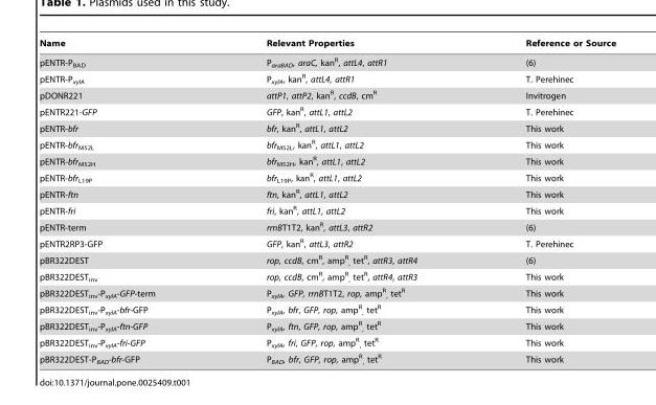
<table><thead><tr><td>Name</td><td>Relevant Properties</td><td>Reference or Source</td></tr></thead><tbody><tr><td>pENTR-P<sub>BAD</sub></td><td>P<sub>araBAD</sub>, araC, kan<sup>R</sup>, attL4, attR1</td><td>(6)</td></tr><tr><td>pENTR-P<sub>xylA</sub></td><td>P<sub>xylA</sub>, kan<sup>R</sup>, attL4, attR1</td><td>T. Perehinec</td></tr><tr><td>pDONR221</td><td>attP1, attP2, kan<sup>R</sup>, ccdB, cm<sup>R</sup></td><td>Invitrogen</td></tr><tr><td>pENTR221-GFP</td><td>GFP, kan<sup>R</sup>, attL1, attL2</td><td>T. Perehinec</td></tr><tr><td>pENTR-bfr</td><td>bfr, kan<sup>R</sup>, attL1, attL2</td><td>This work</td></tr><tr><td>pENTR-bfr<sub>M52L</sub></td><td>bfr<sub>M52L</sub>, kan<sup>R</sup>, attL1, attL2</td><td>This work</td></tr><tr><td>pENTR-bfr<sub>M52H</sub></td><td>bfr<sub>M52H</sub>, kan<sup>R</sup>, attL1, attL2</td><td>This work</td></tr><tr><td>pENTR-bfr<sub>L19P</sub></td><td>bfr<sub>L19P</sub>, kan<sup>R</sup>, attL1, attL2</td><td>This work</td></tr><tr><td>pENTR-ftn</td><td>ftn, kan<sup>R</sup>, attL1, attL2</td><td>This work</td></tr><tr><td>pENTR-fri</td><td>fri, kan<sup>R</sup>, attL1, attL2</td><td>This work</td></tr><tr><td>pENTR-term</td><td>rrnBT1T2, kan<sup>R</sup>, attL3, attR2</td><td>(6)</td></tr><tr><td>pENTR2RP3-GFP</td><td>GFP, kan<sup>R</sup>, attL3, attR2</td><td>T. Perehinec</td></tr><tr><td>pBR322DEST</td><td>rop, ccdB, cm<sup>R</sup>, amp<sup>R</sup> <sub>,</sub> tet<sup>R</sup>, attR3, attR4</td><td>(6)</td></tr><tr><td>pBR322DEST<sub>inv</sub></td><td>rop, ccdB, cm<sup>R</sup>, amp<sup>R</sup> <sub>,</sub> tet<sup>R</sup>, attR4, attR3</td><td>This work</td></tr><tr><td>pBR322DEST<sub>inv</sub>-P<sub>xylA</sub>-GFP-term</td><td>P<sub>xylA</sub>, GFP, rrnBT1T2, rop, amp<sup>R</sup> <sub>,</sub> tet<sup>R</sup></td><td>This work</td></tr><tr><td>pBR322DEST<sub>inv</sub>-P<sub>xylA</sub>-bfr-GFP</td><td>P<sub>xylA</sub>, bfr, GFP, rop, amp<sup>R</sup> <sub>,</sub> tet<sup>R</sup></td><td>This work</td></tr><tr><td>pBR322DEST<sub>inv</sub>-P<sub>xylA</sub>-ftn-GFP</td><td>P<sub>xylA</sub>, ftn, GFP, rop, amp<sup>R</sup> <sub>,</sub> tet<sup>R</sup></td><td>This work</td></tr><tr><td>pBR322DEST<sub>inv</sub>-P<sub>xylA</sub>-fri-GFP</td><td>P<sub>xylA</sub>, fri, GFP, rop, amp<sup>R</sup> <sub>,</sub> tet<sup>R</sup></td><td>This work</td></tr><tr><td>pBR322DEST-P<sub>BAD</sub>-bfr-GFP</td><td>P<sub>BAD</sub>, bfr, GFP, rop, amp<sup>R</sup> <sub>,</sub> tet<sup>R</sup></td><td>This work</td></tr></tbody></table>